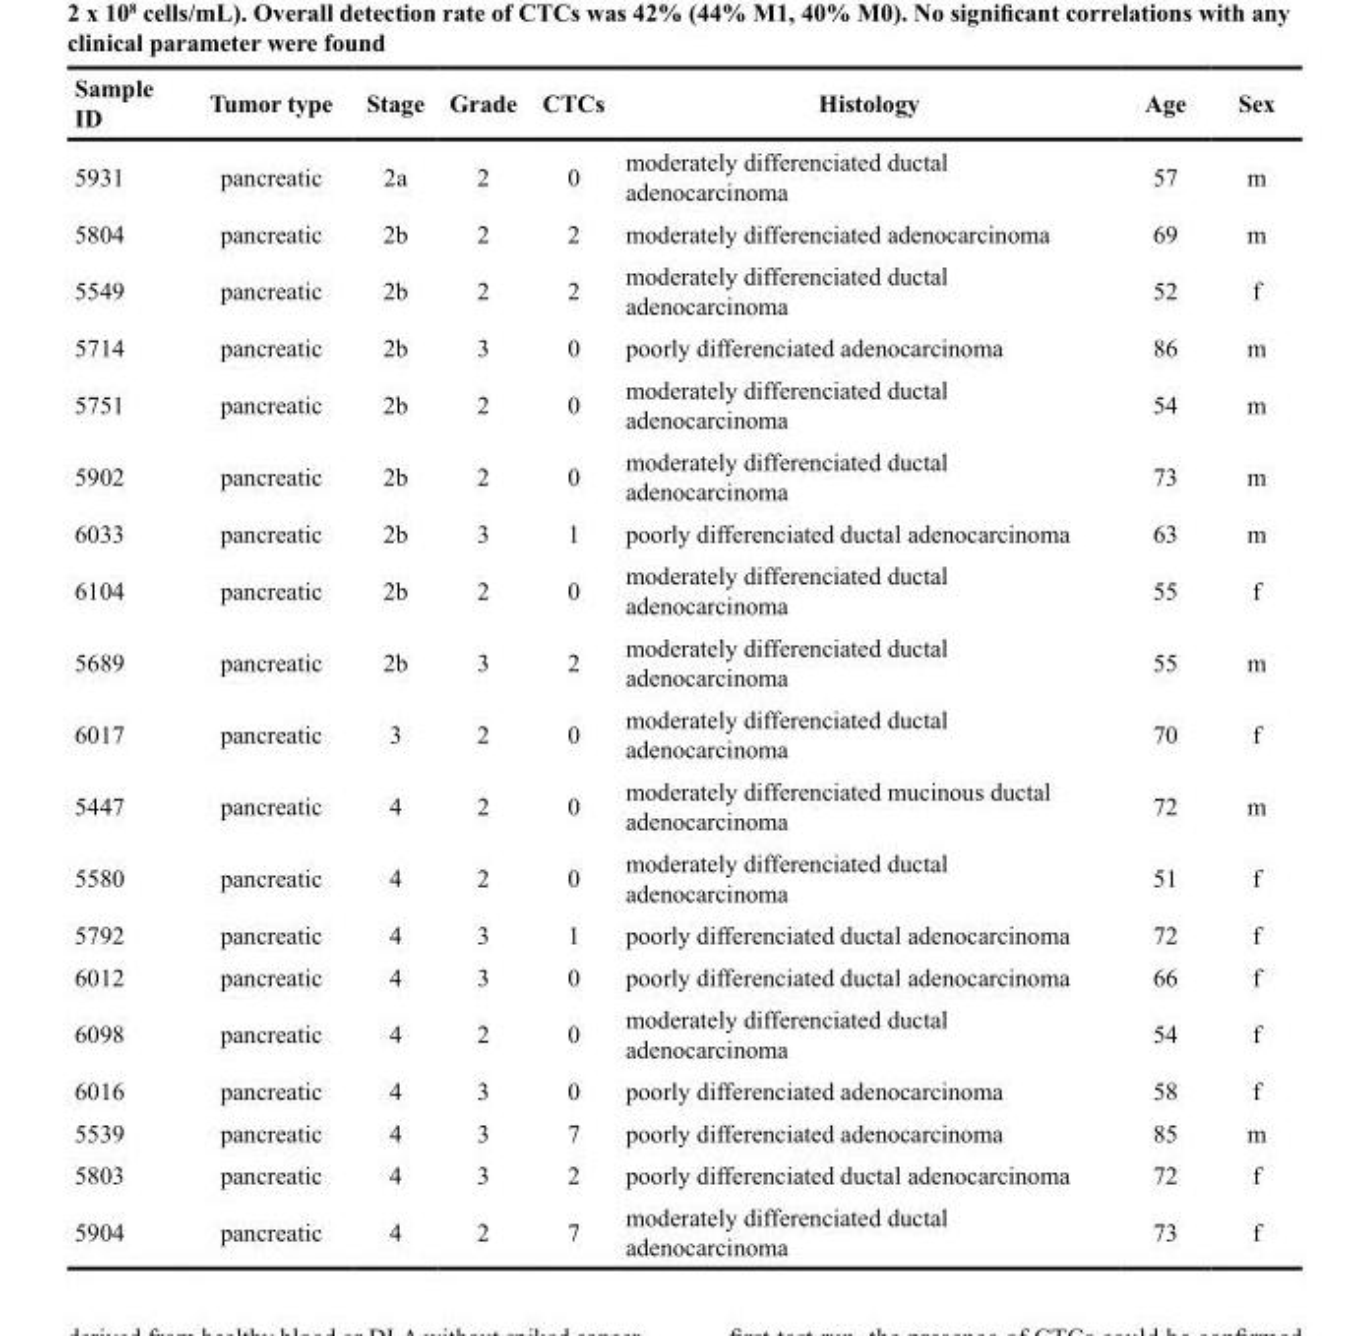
<table><thead><tr><td>Sample ID</td><td>Tumor type</td><td>Stage</td><td>Grade</td><td>CTCs</td><td>Histology</td><td>Age</td><td>Sex</td></tr></thead><tbody><tr><td>5931</td><td>pancreatic</td><td>2a</td><td>2</td><td>0</td><td>moderately differenciated ductal adenocarcinoma</td><td>57</td><td>m</td></tr><tr><td>5804</td><td>pancreatic</td><td>2b</td><td>2</td><td>2</td><td>moderately differenciated adenocarcinoma</td><td>69</td><td>m</td></tr><tr><td>5549</td><td>pancreatic</td><td>2b</td><td>2</td><td>2</td><td>moderately differenciated ductal adenocarcinoma</td><td>52</td><td>f</td></tr><tr><td>5714</td><td>pancreatic</td><td>2b</td><td>3</td><td>0</td><td>poorly differenciated adenocarcinoma</td><td>86</td><td>m</td></tr><tr><td>5751</td><td>pancreatic</td><td>2b</td><td>2</td><td>0</td><td>moderately differenciated ductal adenocarcinoma</td><td>54</td><td>m</td></tr><tr><td>5902</td><td>pancreatic</td><td>2b</td><td>2</td><td>0</td><td>moderately differenciated ductal adenocarcinoma</td><td>73</td><td>m</td></tr><tr><td>6033</td><td>pancreatic</td><td>2b</td><td>3</td><td>1</td><td>poorly differenciated ductal adenocarcinoma</td><td>63</td><td>m</td></tr><tr><td>6104</td><td>pancreatic</td><td>2b</td><td>2</td><td>0</td><td>moderately differenciated ductal adenocarcinoma</td><td>55</td><td>f</td></tr><tr><td>5689</td><td>pancreatic</td><td>2b</td><td>3</td><td>2</td><td>moderately differenciated ductal adenocarcinoma</td><td>55</td><td>m</td></tr><tr><td>6017</td><td>pancreatic</td><td>3</td><td>2</td><td>0</td><td>moderately differenciated ductal adenocarcinoma</td><td>70</td><td>f</td></tr><tr><td>5447</td><td>pancreatic</td><td>4</td><td>2</td><td>0</td><td>moderately differenciated mucinous ductal adenocarcinoma</td><td>72</td><td>m</td></tr><tr><td>5580</td><td>pancreatic</td><td>4</td><td>2</td><td>0</td><td>moderately differenciated ductal adenocarcinoma</td><td>51</td><td>f</td></tr><tr><td>5792</td><td>pancreatic</td><td>4</td><td>3</td><td>1</td><td>poorly differenciated ductal adenocarcinoma</td><td>72</td><td>f</td></tr><tr><td>6012</td><td>pancreatic</td><td>4</td><td>3</td><td>0</td><td>poorly differenciated ductal adenocarcinoma</td><td>66</td><td>f</td></tr><tr><td>6098</td><td>pancreatic</td><td>4</td><td>2</td><td>0</td><td>moderately differenciated ductal adenocarcinoma</td><td>54</td><td>f</td></tr><tr><td>6016</td><td>pancreatic</td><td>4</td><td>3</td><td>0</td><td>poorly differenciated adenocarcinoma</td><td>58</td><td>f</td></tr><tr><td>5539</td><td>pancreatic</td><td>4</td><td>3</td><td>7</td><td>poorly differenciated adenocarcinoma</td><td>85</td><td>m</td></tr><tr><td>5803</td><td>pancreatic</td><td>4</td><td>3</td><td>2</td><td>poorly differenciated ductal adenocarcinoma</td><td>72</td><td>f</td></tr><tr><td>5904</td><td>pancreatic</td><td>4</td><td>2</td><td>7</td><td>moderately differenciated ductal adenocarcinoma</td><td>73</td><td>f</td></tr></tbody></table>